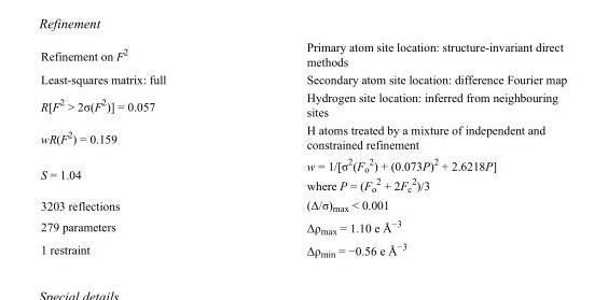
<table><tbody><tr><td>Refinement on F<sup>2</sup></td><td>Primary atom site location: structure-invariant direct methods</td></tr><tr><td>Least-squares matrix: full</td><td>Secondary atom site location: difference Fourier map</td></tr><tr><td>R[F<sup>2</sup> &gt; 2σ(F<sup>2</sup>)] = 0.057</td><td>Hydrogen site location: inferred from neighbouring sites</td></tr><tr><td>wR(F<sup>2</sup>) = 0.159</td><td>H atoms treated by a mixture of independent and constrained refinement</td></tr><tr><td>S = 1.04</td><td>w = 1/[σ<sup>2</sup>(F<sub>o</sub> <sup>2</sup>) + (0.073P)<sup>2</sup> + 2.6218P] where P = (F<sub>o</sub> <sup>2</sup> + 2F<sub>c</sub> <sup>2</sup>)/3</td></tr><tr><td>3203 reflections</td><td>(Δ/σ)<sub>max</sub> &lt; 0.001</td></tr><tr><td>279 parameters</td><td>Δρ<sub>max</sub> = 1.10 e Å<sup>−3</sup></td></tr><tr><td>1 restraint</td><td>Δρ<sub>min</sub> = −0.56 e Å<sup>−3</sup></td></tr></tbody></table>